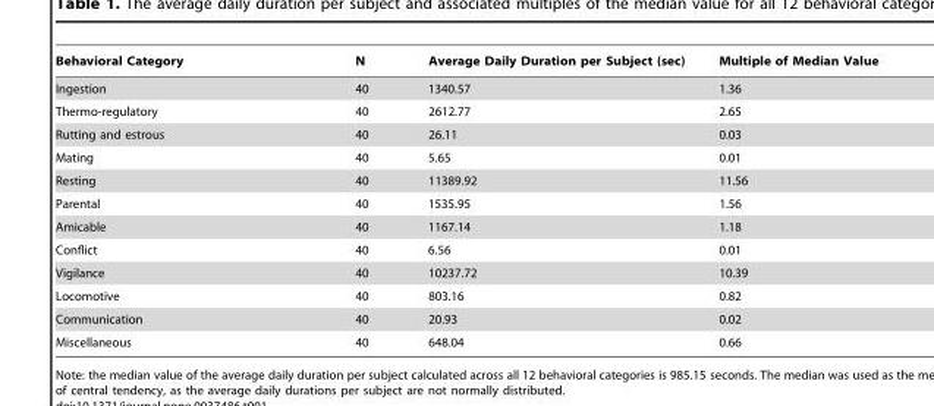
<table><thead><tr><td>Behavioral Category</td><td>N</td><td>Average Daily Duration per Subject (sec)</td><td>Multiple of Median Value</td></tr></thead><tbody><tr><td>Ingestion</td><td>40</td><td>1340.57</td><td>1.36</td></tr><tr><td>Thermo-regulatory</td><td>40</td><td>2612.77</td><td>2.65</td></tr><tr><td>Rutting and estrous</td><td>40</td><td>26.11</td><td>0.03</td></tr><tr><td>Mating</td><td>40</td><td>5.65</td><td>0.01</td></tr><tr><td>Resting</td><td>40</td><td>11389.92</td><td>11.56</td></tr><tr><td>Parental</td><td>40</td><td>1535.95</td><td>1.56</td></tr><tr><td>Amicable</td><td>40</td><td>1167.14</td><td>1.18</td></tr><tr><td>Conflict</td><td>40</td><td>6.56</td><td>0.01</td></tr><tr><td>Vigilance</td><td>40</td><td>10237.72</td><td>10.39</td></tr><tr><td>Locomotive</td><td>40</td><td>803.16</td><td>0.82</td></tr><tr><td>Communication</td><td>40</td><td>20.93</td><td>0.02</td></tr><tr><td>Miscellaneous</td><td>40</td><td>648.04</td><td>0.66</td></tr></tbody></table>